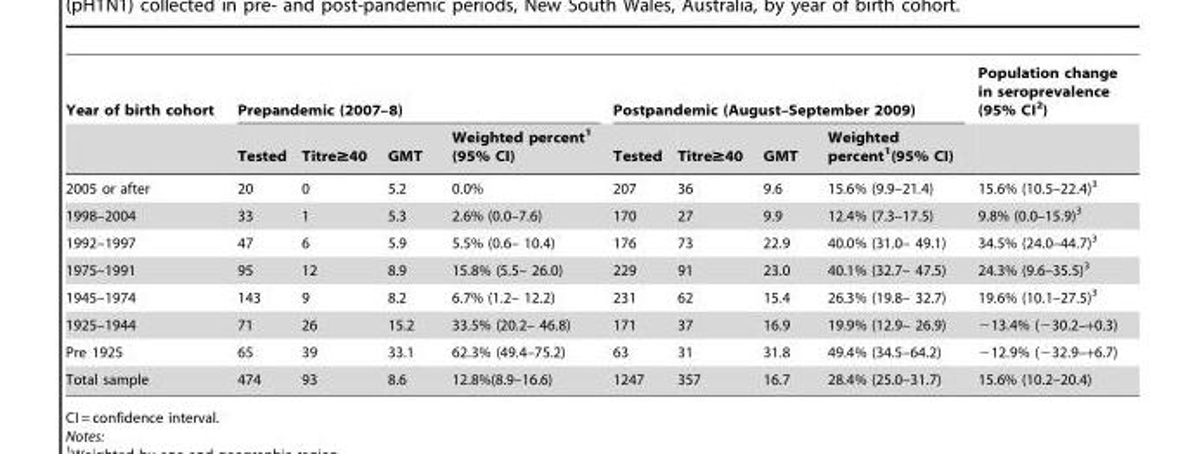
<table><thead><tr><td rowspan="2">Year of birth cohort</td><td colspan="4">Prepandemic (2007–8)</td><td colspan="4">Postpandemic (August–September 2009)</td><td rowspan="2">Population change in seroprevalence (95% CI<sup>2</sup>)</td></tr><tr><td>Tested</td><td>Titre≥40</td><td>GMT</td><td>Weighted percent<sup>1</sup> (95% CI)</td><td>Tested</td><td>Titre≥40</td><td>GMT</td><td>Weighted percent<sup>1</sup>(95% CI)</td></tr></thead><tbody><tr><td>2005 or after</td><td>20</td><td>0</td><td>5.2</td><td>0.0%</td><td>207</td><td>36</td><td>9.6</td><td>15.6% (9.9–21.4)</td><td>15.6% (10.5–22.4)<sup>3</sup></td></tr><tr><td>1998–2004</td><td>33</td><td>1</td><td>5.3</td><td>2.6% (0.0–7.6)</td><td>170</td><td>27</td><td>9.9</td><td>12.4% (7.3–17.5)</td><td>9.8% (0.0–15.9)<sup>3</sup></td></tr><tr><td>1992–1997</td><td>47</td><td>6</td><td>5.9</td><td>5.5% (0.6– 10.4)</td><td>176</td><td>73</td><td>22.9</td><td>40.0% (31.0– 49.1)</td><td>34.5% (24.0–44.7)<sup>3</sup></td></tr><tr><td>1975–1991</td><td>95</td><td>12</td><td>8.9</td><td>15.8% (5.5– 26.0)</td><td>229</td><td>91</td><td>23.0</td><td>40.1% (32.7– 47.5)</td><td>24.3% (9.6–35.5)<sup>3</sup></td></tr><tr><td>1945–1974</td><td>143</td><td>9</td><td>8.2</td><td>6.7% (1.2– 12.2)</td><td>231</td><td>62</td><td>15.4</td><td>26.3% (19.8– 32.7)</td><td>19.6% (10.1–27.5)<sup>3</sup></td></tr><tr><td>1925–1944</td><td>71</td><td>26</td><td>15.2</td><td>33.5% (20.2– 46.8)</td><td>171</td><td>37</td><td>16.9</td><td>19.9% (12.9– 26.9)</td><td>−13.4% (−30.2–+0.3)</td></tr><tr><td>Pre 1925</td><td>65</td><td>39</td><td>33.1</td><td>62.3% (49.4–75.2)</td><td>63</td><td>31</td><td>31.8</td><td>49.4% (34.5–64.2)</td><td>−12.9% (−32.9–+6.7)</td></tr><tr><td>Total sample</td><td>474</td><td>93</td><td>8.6</td><td>12.8%(8.9–16.6)</td><td>1247</td><td>357</td><td>16.7</td><td>28.4% (25.0–31.7)</td><td>15.6% (10.2–20.4)</td></tr></tbody></table>